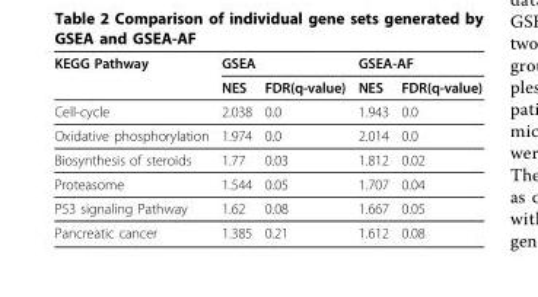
<table><thead><tr><td rowspan="2">KEGG Pathway</td><td colspan="2">GSEA</td><td colspan="2">GSEA-AF</td></tr><tr><td>NES</td><td>FDR(q-value)</td><td>NES</td><td>FDR(q-value)</td></tr></thead><tbody><tr><td>Cell-cycle</td><td>2.038</td><td>0.0</td><td>1.943</td><td>0.0</td></tr><tr><td>Oxidative phosphorylation</td><td>1.974</td><td>0.0</td><td>2.014</td><td>0.0</td></tr><tr><td>Biosynthesis of steroids</td><td>1.77</td><td>0.03</td><td>1.812</td><td>0.02</td></tr><tr><td>Proteasome</td><td>1.544</td><td>0.05</td><td>1.707</td><td>0.04</td></tr><tr><td>P53 signaling Pathway</td><td>1.62</td><td>0.08</td><td>1.667</td><td>0.05</td></tr><tr><td>Pancreatic cancer</td><td>1.385</td><td>0.21</td><td>1.612</td><td>0.08</td></tr></tbody></table>